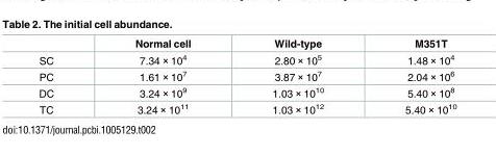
<table><thead><tr><td></td><td>Normal cell</td><td>Wild-type</td><td>M351T</td></tr></thead><tbody><tr><td>SC</td><td>7.34 × 10<sup>4</sup></td><td>2.80 × 10<sup>5</sup></td><td>1.48 × 10<sup>4</sup></td></tr><tr><td>PC</td><td>1.61 × 10<sup>7</sup></td><td>3.87 × 10<sup>7</sup></td><td>2.04 × 10<sup>6</sup></td></tr><tr><td>DC</td><td>3.24 × 10<sup>9</sup></td><td>1.03 × 10<sup>10</sup></td><td>5.40 × 10<sup>8</sup></td></tr><tr><td>TC</td><td>3.24 × 10<sup>11</sup></td><td>1.03 × 10<sup>12</sup></td><td>5.40 × 10<sup>10</sup></td></tr></tbody></table>